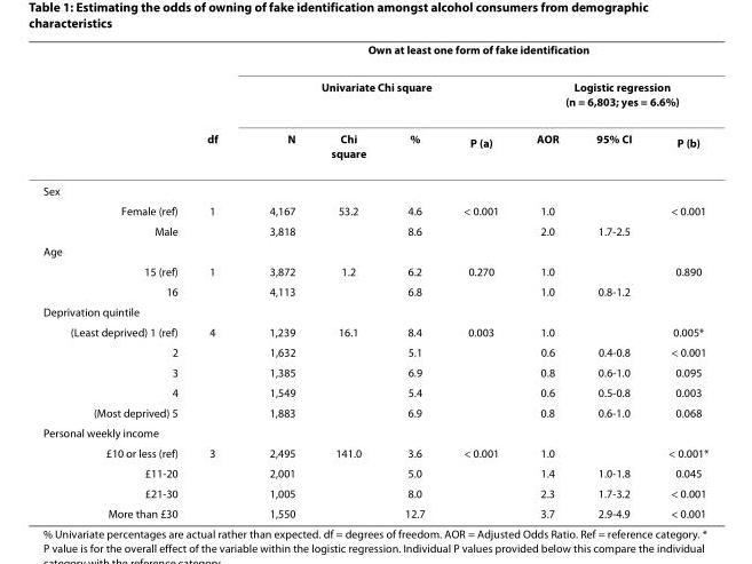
<table><thead><tr><td rowspan="3"></td><td rowspan="3">df</td><td colspan="7">Own at least one form of fake identification</td></tr><tr><td colspan="4">Univariate Chi square</td><td colspan="3">Logistic regression (n = 6,803; yes = 6.6%)</td></tr><tr><td>N</td><td>Chi square</td><td>%</td><td>P <sup>(a)</sup></td><td>AOR</td><td>95% CI</td><td>P <sup>(b)</sup></td></tr></thead><tbody><tr><td colspan="9">Sex</td></tr><tr><td>Female (ref)</td><td>1</td><td>4,167</td><td>53.2</td><td>4.6</td><td>&lt; 0.001</td><td>1.0</td><td></td><td>&lt; 0.001</td></tr><tr><td>Male</td><td></td><td>3,818</td><td></td><td>8.6</td><td></td><td>2.0</td><td>1.7-2.5</td><td></td></tr><tr><td colspan="9">Age</td></tr><tr><td>15 (ref)</td><td>1</td><td>3,872</td><td>1.2</td><td>6.2</td><td>0.270</td><td>1.0</td><td></td><td>0.890</td></tr><tr><td>16</td><td></td><td>4,113</td><td></td><td>6.8</td><td></td><td>1.0</td><td>0.8-1.2</td><td></td></tr><tr><td colspan="9">Deprivation quintile</td></tr><tr><td>(Least deprived) 1 (ref)</td><td>4</td><td>1,239</td><td>16.1</td><td>8.4</td><td>0.003</td><td>1.0</td><td></td><td>0.005*</td></tr><tr><td>2</td><td></td><td>1,632</td><td></td><td>5.1</td><td></td><td>0.6</td><td>0.4-0.8</td><td>&lt; 0.001</td></tr><tr><td>3</td><td></td><td>1,385</td><td></td><td>6.9</td><td></td><td>0.8</td><td>0.6-1.0</td><td>0.095</td></tr><tr><td>4</td><td></td><td>1,549</td><td></td><td>5.4</td><td></td><td>0.6</td><td>0.5-0.8</td><td>0.003</td></tr><tr><td>(Most deprived) 5</td><td></td><td>1,883</td><td></td><td>6.9</td><td></td><td>0.8</td><td>0.6-1.0</td><td>0.068</td></tr><tr><td colspan="9">Personal weekly income</td></tr><tr><td>£10 or less (ref)</td><td>3</td><td>2,495</td><td>141.0</td><td>3.6</td><td>&lt; 0.001</td><td>1.0</td><td></td><td>&lt; 0.001*</td></tr><tr><td>£11-20</td><td></td><td>2,001</td><td></td><td>5.0</td><td></td><td>1.4</td><td>1.0-1.8</td><td>0.045</td></tr><tr><td>£21-30</td><td></td><td>1,005</td><td></td><td>8.0</td><td></td><td>2.3</td><td>1.7-3.2</td><td>&lt; 0.001</td></tr><tr><td>More than £30</td><td></td><td>1,550</td><td></td><td>12.7</td><td></td><td>3.7</td><td>2.9-4.9</td><td>&lt; 0.001</td></tr></tbody></table>